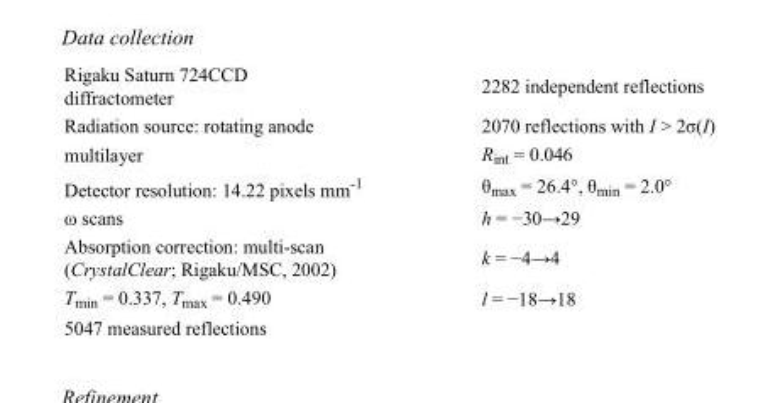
<table><tbody><tr><td>Rigaku Saturn 724CCD diffractometer</td><td>2282 independent reflections</td></tr><tr><td>Radiation source: rotating anode</td><td>2070 reflections with I &gt; 2σ(I)</td></tr><tr><td>multilayer</td><td>R<sub>int</sub> = 0.046</td></tr><tr><td>Detector resolution: 14.22 pixels mm<sup>-1</sup></td><td>θ<sub>max</sub> = 26.4°, θ<sub>min</sub> = 2.0°</td></tr><tr><td>ω scans</td><td>h = −30→29</td></tr><tr><td>Absorption correction: multi-scan (CrystalClear; Rigaku/MSC, 2002)</td><td>k = −4→4</td></tr><tr><td>T<sub>min</sub> = 0.337, T<sub>max</sub> = 0.490</td><td>l = −18→18</td></tr><tr><td>5047 measured reflections</td><td></td></tr></tbody></table>